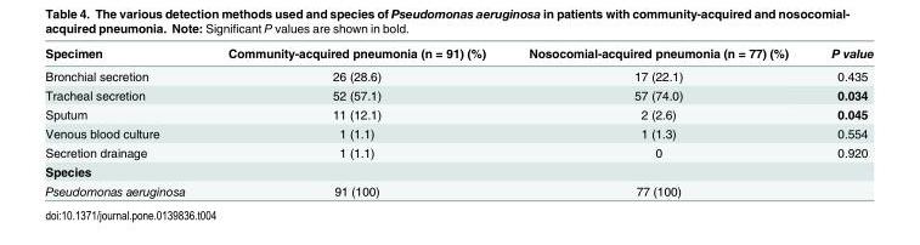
<table><thead><tr><td>Specimen</td><td>Community-acquired pneumonia (n = 91) (%)</td><td>Nosocomial-acquired pneumonia (n = 77) (%)</td><td>P value</td></tr></thead><tbody><tr><td>Bronchial secretion</td><td>26 (28.6)</td><td>17 (22.1)</td><td>0.435</td></tr><tr><td>Tracheal secretion</td><td>52 (57.1)</td><td>57 (74.0)</td><td>0.034</td></tr><tr><td>Sputum</td><td>11 (12.1)</td><td>2 (2.6)</td><td>0.045</td></tr><tr><td>Venous blood culture</td><td>1 (1.1)</td><td>1 (1.3)</td><td>0.554</td></tr><tr><td>Secretion drainage</td><td>1 (1.1)</td><td>0</td><td>0.920</td></tr><tr><td colspan="4">Species</td></tr><tr><td>Pseudomonas aeruginosa</td><td>91 (100)</td><td>77 (100)</td><td></td></tr></tbody></table>